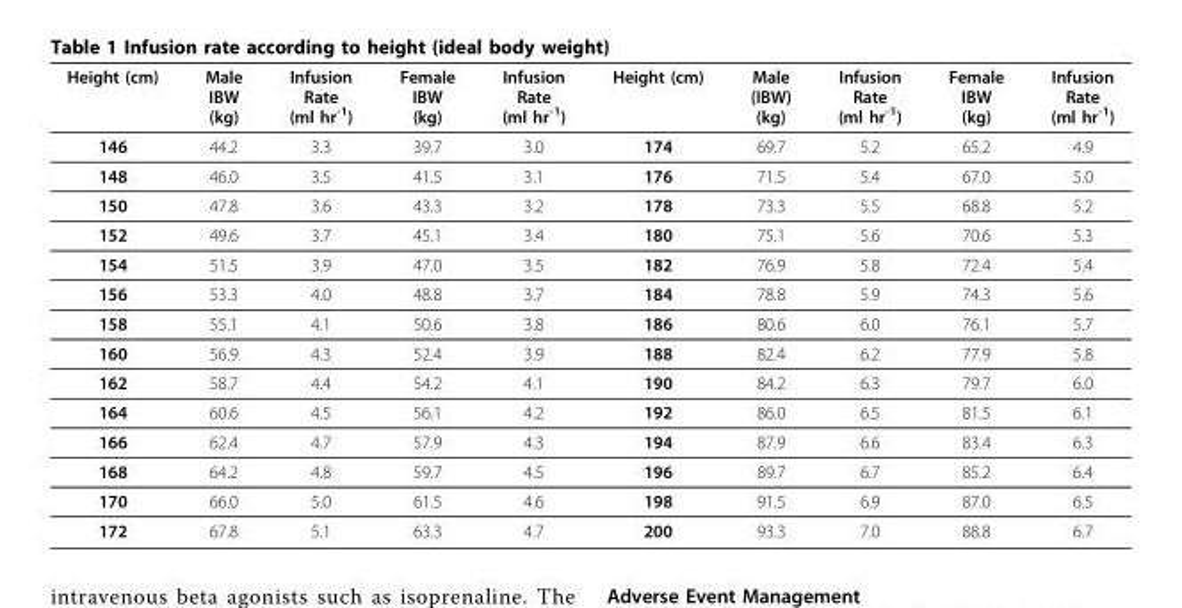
<table><thead><tr><td>Height (cm)</td><td>Male IBW (kg)</td><td>Infusion Rate (ml hr<sup>-1</sup>)</td><td>Female IBW (kg)</td><td>Infusion Rate (ml hr<sup>-1</sup>)</td><td>Height (cm)</td><td>Male (IBW) (kg)</td><td>Infusion Rate (ml hr<sup>-1</sup>)</td><td>Female IBW (kg)</td><td>Infusion Rate (ml hr<sup>-1</sup>)</td></tr></thead><tbody><tr><td>146</td><td>44.2</td><td>3.3</td><td>39.7</td><td>3.0</td><td>174</td><td>69.7</td><td>5.2</td><td>65.2</td><td>4.9</td></tr><tr><td>148</td><td>46.0</td><td>3.5</td><td>41.5</td><td>3.1</td><td>176</td><td>71.5</td><td>5.4</td><td>67.0</td><td>5.0</td></tr><tr><td>150</td><td>47.8</td><td>3.6</td><td>43.3</td><td>3.2</td><td>178</td><td>73.3</td><td>5.5</td><td>68.8</td><td>5.2</td></tr><tr><td>152</td><td>49.6</td><td>3.7</td><td>45.1</td><td>3.4</td><td>180</td><td>75.1</td><td>5.6</td><td>70.6</td><td>5.3</td></tr><tr><td>154</td><td>51.5</td><td>3.9</td><td>47.0</td><td>3.5</td><td>182</td><td>76.9</td><td>5.8</td><td>72.4</td><td>5.4</td></tr><tr><td>156</td><td>53.3</td><td>4.0</td><td>48.8</td><td>3.7</td><td>184</td><td>78.8</td><td>5.9</td><td>74.3</td><td>5.6</td></tr><tr><td>158</td><td>55.1</td><td>4.1</td><td>50.6</td><td>3.8</td><td>186</td><td>80.6</td><td>6.0</td><td>76.1</td><td>5.7</td></tr><tr><td>160</td><td>56.9</td><td>4.3</td><td>52.4</td><td>3.9</td><td>188</td><td>82.4</td><td>6.2</td><td>77.9</td><td>5.8</td></tr><tr><td>162</td><td>58.7</td><td>4.4</td><td>54.2</td><td>4.1</td><td>190</td><td>84.2</td><td>6.3</td><td>79.7</td><td>6.0</td></tr><tr><td>164</td><td>60.6</td><td>4.5</td><td>56.1</td><td>4.2</td><td>192</td><td>86.0</td><td>6.5</td><td>81.5</td><td>6.1</td></tr><tr><td>166</td><td>62.4</td><td>4.7</td><td>57.9</td><td>4.3</td><td>194</td><td>87.9</td><td>6.6</td><td>83.4</td><td>6.3</td></tr><tr><td>168</td><td>64.2</td><td>4.8</td><td>59.7</td><td>4.5</td><td>196</td><td>89.7</td><td>6.7</td><td>85.2</td><td>6.4</td></tr><tr><td>170</td><td>66.0</td><td>5.0</td><td>61.5</td><td>4.6</td><td>198</td><td>91.5</td><td>6.9</td><td>87.0</td><td>6.5</td></tr><tr><td>172</td><td>67.8</td><td>5.1</td><td>63.3</td><td>4.7</td><td>200</td><td>93.3</td><td>7.0</td><td>88.8</td><td>6.7</td></tr></tbody></table>